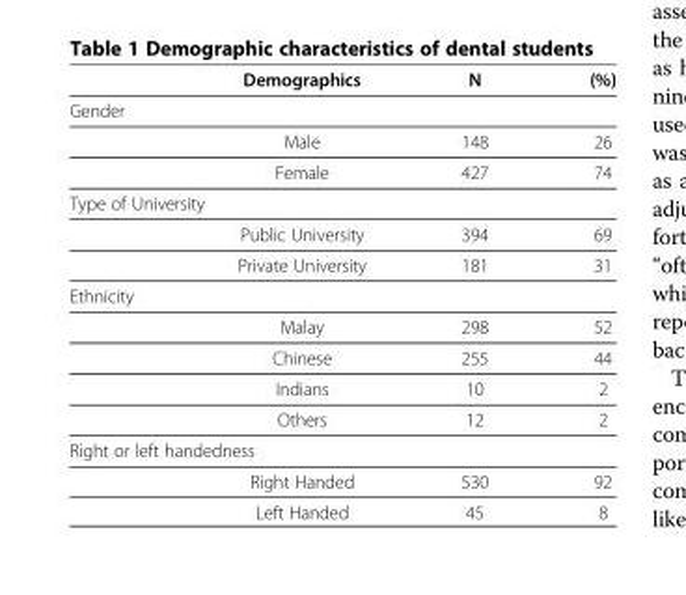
<table><thead><tr><td>Demographics</td><td>N</td><td>(%)</td></tr></thead><tbody><tr><td colspan="3">Gender</td></tr><tr><td>Male</td><td>148</td><td>26</td></tr><tr><td>Female</td><td>427</td><td>74</td></tr><tr><td colspan="3">Type of University</td></tr><tr><td>Public University</td><td>394</td><td>69</td></tr><tr><td>Private University</td><td>181</td><td>31</td></tr><tr><td colspan="3">Ethnicity</td></tr><tr><td>Malay</td><td>298</td><td>52</td></tr><tr><td>Chinese</td><td>255</td><td>44</td></tr><tr><td>Indians</td><td>10</td><td>2</td></tr><tr><td>Others</td><td>12</td><td>2</td></tr><tr><td colspan="3">Right or left handedness</td></tr><tr><td>Right Handed</td><td>530</td><td>92</td></tr><tr><td>Left Handed</td><td>45</td><td>8</td></tr></tbody></table>